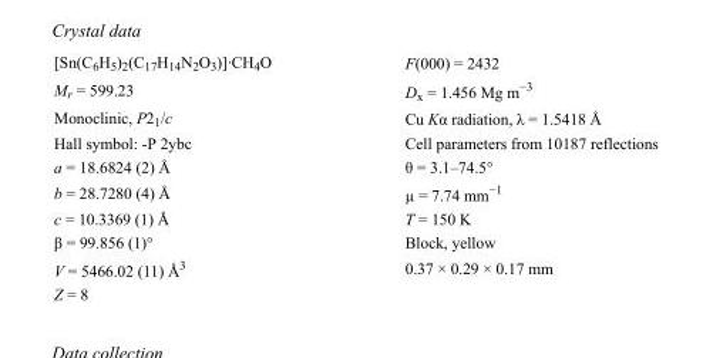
<table><tbody><tr><td>[Sn(C<sub>6</sub>H<sub>5</sub>)<sub>2</sub>(C<sub>17</sub>H<sub>14</sub>N<sub>2</sub>O<sub>3</sub>)]·CH<sub>4</sub>O</td><td>F(000) = 2432</td></tr><tr><td>M<sub>r</sub> = 599.23</td><td>D<sub>x</sub> = 1.456 Mg m<sup>−3</sup></td></tr><tr><td>Monoclinic, P2<sub>1</sub>/c</td><td>Cu Kα radiation, λ = 1.5418 Å</td></tr><tr><td>Hall symbol: -P 2ybc</td><td>Cell parameters from 10187 reflections</td></tr><tr><td>a = 18.6824 (2) Å</td><td>θ = 3.1–74.5°</td></tr><tr><td>b = 28.7280 (4) Å</td><td>µ = 7.74 mm<sup>−1</sup></td></tr><tr><td>c = 10.3369 (1) Å</td><td>T = 150 K</td></tr><tr><td>β = 99.856 (1)°</td><td>Block, yellow</td></tr><tr><td>V = 5466.02 (11) Å<sup>3</sup></td><td>0.37 × 0.29 × 0.17 mm</td></tr><tr><td>Z = 8</td><td></td></tr></tbody></table>